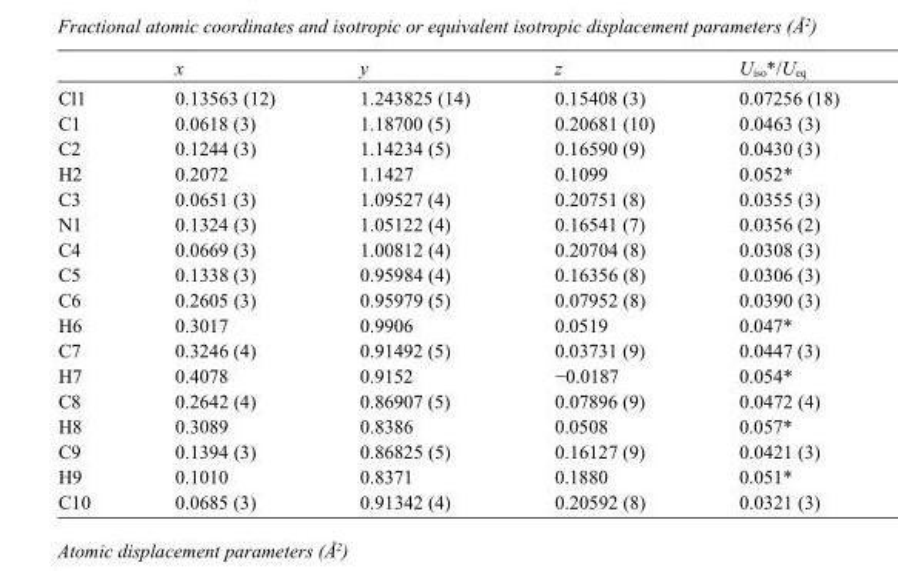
<table><thead><tr><td></td><td>x</td><td>y</td><td>z</td><td>U<sub>iso</sub>*/U<sub>eq</sub></td></tr></thead><tbody><tr><td>Cl1</td><td>0.13563 (12)</td><td>1.243825 (14)</td><td>0.15408 (3)</td><td>0.07256 (18)</td></tr><tr><td>C1</td><td>0.0618 (3)</td><td>1.18700 (5)</td><td>0.20681 (10)</td><td>0.0463 (3)</td></tr><tr><td>C2</td><td>0.1244 (3)</td><td>1.14234 (5)</td><td>0.16590 (9)</td><td>0.0430 (3)</td></tr><tr><td>H2</td><td>0.2072</td><td>1.1427</td><td>0.1099</td><td>0.052*</td></tr><tr><td>C3</td><td>0.0651 (3)</td><td>1.09527 (4)</td><td>0.20751 (8)</td><td>0.0355 (3)</td></tr><tr><td>N1</td><td>0.1324 (3)</td><td>1.05122 (4)</td><td>0.16541 (7)</td><td>0.0356 (2)</td></tr><tr><td>C4</td><td>0.0669 (3)</td><td>1.00812 (4)</td><td>0.20704 (8)</td><td>0.0308 (3)</td></tr><tr><td>C5</td><td>0.1338 (3)</td><td>0.95984 (4)</td><td>0.16356 (8)</td><td>0.0306 (3)</td></tr><tr><td>C6</td><td>0.2605 (3)</td><td>0.95979 (5)</td><td>0.07952 (8)</td><td>0.0390 (3)</td></tr><tr><td>H6</td><td>0.3017</td><td>0.9906</td><td>0.0519</td><td>0.047*</td></tr><tr><td>C7</td><td>0.3246 (4)</td><td>0.91492 (5)</td><td>0.03731 (9)</td><td>0.0447 (3)</td></tr><tr><td>H7</td><td>0.4078</td><td>0.9152</td><td>−0.0187</td><td>0.054*</td></tr><tr><td>C8</td><td>0.2642 (4)</td><td>0.86907 (5)</td><td>0.07896 (9)</td><td>0.0472 (4)</td></tr><tr><td>H8</td><td>0.3089</td><td>0.8386</td><td>0.0508</td><td>0.057*</td></tr><tr><td>C9</td><td>0.1394 (3)</td><td>0.86825 (5)</td><td>0.16127 (9)</td><td>0.0421 (3)</td></tr><tr><td>H9</td><td>0.1010</td><td>0.8371</td><td>0.1880</td><td>0.051*</td></tr><tr><td>C10</td><td>0.0685 (3)</td><td>0.91342 (4)</td><td>0.20592 (8)</td><td>0.0321 (3)</td></tr></tbody></table>